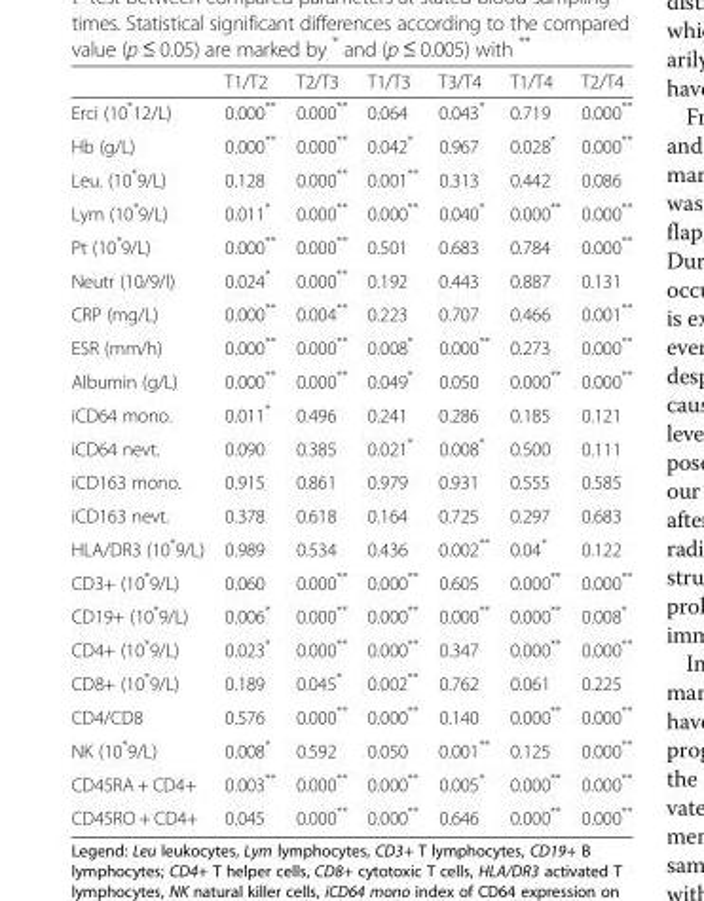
<table><thead><tr><td></td><td>T1/T2</td><td>T2/T3</td><td>T1/T3</td><td>T3/T4</td><td>T1/T4</td><td>T2/T4</td></tr></thead><tbody><tr><td>Erci (10*12/L)</td><td>0.000**</td><td>0.000**</td><td>0.064</td><td>0.043*</td><td>0.719</td><td>0.000**</td></tr><tr><td>Hb (g/L)</td><td>0.000**</td><td>0.000**</td><td>0.042*</td><td>0.967</td><td>0.028*</td><td>0.000**</td></tr><tr><td>Leu. (10*9/L)</td><td>0.128</td><td>0.000**</td><td>0.001**</td><td>0.313</td><td>0.442</td><td>0.086</td></tr><tr><td>Lym (10*9/L)</td><td>0.011*</td><td>0.000**</td><td>0.000**</td><td>0.040*</td><td>0.000**</td><td>0.000**</td></tr><tr><td>Pt (10*9/L)</td><td>0.000**</td><td>0.000**</td><td>0.501</td><td>0.683</td><td>0.784</td><td>0.000**</td></tr><tr><td>Neutr (10/9/l)</td><td>0.024*</td><td>0.000**</td><td>0.192</td><td>0.443</td><td>0.887</td><td>0.131</td></tr><tr><td>CRP (mg/L)</td><td>0.000**</td><td>0.004**</td><td>0.223</td><td>0.707</td><td>0.466</td><td>0.001**</td></tr><tr><td>ESR (mm/h)</td><td>0.000**</td><td>0.000**</td><td>0.008*</td><td>0.000**</td><td>0.273</td><td>0.000**</td></tr><tr><td>Albumin (g/L)</td><td>0.000**</td><td>0.000**</td><td>0.049*</td><td>0.050</td><td>0.000**</td><td>0.000**</td></tr><tr><td>iCD64 mono.</td><td>0.011*</td><td>0.496</td><td>0.241</td><td>0.286</td><td>0.185</td><td>0.121</td></tr><tr><td>iCD64 nevt.</td><td>0.090</td><td>0.385</td><td>0.021*</td><td>0.008*</td><td>0.500</td><td>0.111</td></tr><tr><td>iCD163 mono.</td><td>0.915</td><td>0.861</td><td>0.979</td><td>0.931</td><td>0.555</td><td>0.585</td></tr><tr><td>iCD163 nevt.</td><td>0.378</td><td>0.618</td><td>0.164</td><td>0.725</td><td>0.297</td><td>0.683</td></tr><tr><td>HLA/DR3 (10*9/L)</td><td>0.989</td><td>0.534</td><td>0.436</td><td>0.002**</td><td>0.04*</td><td>0.122</td></tr><tr><td>CD3+ (10*9/L)</td><td>0.060</td><td>0.000**</td><td>0.000**</td><td>0.605</td><td>0.000**</td><td>0.000**</td></tr><tr><td>CD19+ (10*9/L)</td><td>0.006*</td><td>0.000**</td><td>0.000**</td><td>0.000**</td><td>0.000**</td><td>0.008*</td></tr><tr><td>CD4+ (10*9/L)</td><td>0.023*</td><td>0.000**</td><td>0.000**</td><td>0.347</td><td>0.000**</td><td>0.000**</td></tr><tr><td>CD8+ (10*9/L)</td><td>0.189</td><td>0.045*</td><td>0.002**</td><td>0.762</td><td>0.061</td><td>0.225</td></tr><tr><td>CD4/CD8</td><td>0.576</td><td>0.000**</td><td>0.000**</td><td>0.140</td><td>0.000**</td><td>0.000**</td></tr><tr><td>NK (10*9/L)</td><td>0.008*</td><td>0.592</td><td>0.050</td><td>0.001**</td><td>0.125</td><td>0.000**</td></tr><tr><td>CD45RA + CD4+</td><td>0.003**</td><td>0.000**</td><td>0.000**</td><td>0.005*</td><td>0.000**</td><td>0.000**</td></tr><tr><td>CD45RO + CD4+</td><td>0.045</td><td>0.000**</td><td>0.000**</td><td>0.646</td><td>0.000**</td><td>0.000**</td></tr></tbody></table>